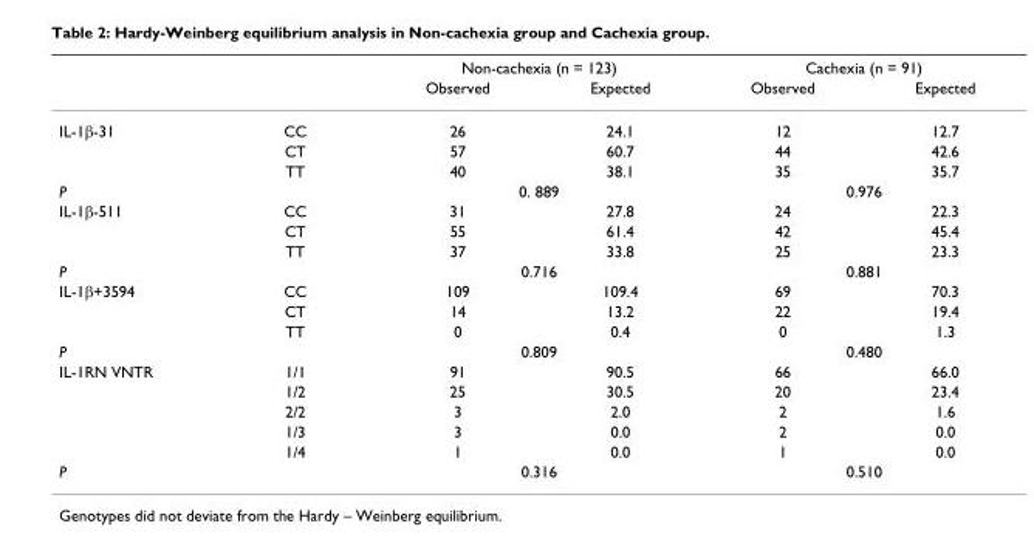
<table><thead><tr><td rowspan="2"></td><td rowspan="2"></td><td colspan="2">Non-cachexia (n = 123)</td><td colspan="2">Cachexia (n = 91)</td></tr><tr><td>Observed</td><td>Expected</td><td>Observed</td><td>Expected</td></tr></thead><tbody><tr><td rowspan="3">IL-1β-31</td><td>CC</td><td>26</td><td>24.1</td><td>12</td><td>12.7</td></tr><tr><td>CT</td><td>57</td><td>60.7</td><td>44</td><td>42.6</td></tr><tr><td>TT</td><td>40</td><td>38.1</td><td>35</td><td>35.7</td></tr><tr><td>P</td><td></td><td colspan="2">0. 889</td><td colspan="2">0.976</td></tr><tr><td rowspan="3">IL-1β-511</td><td>CC</td><td>31</td><td>27.8</td><td>24</td><td>22.3</td></tr><tr><td>CT</td><td>55</td><td>61.4</td><td>42</td><td>45.4</td></tr><tr><td>TT</td><td>37</td><td>33.8</td><td>25</td><td>23.3</td></tr><tr><td>P</td><td></td><td colspan="2">0.716</td><td colspan="2">0.881</td></tr><tr><td rowspan="3">IL-1β+3594</td><td>CC</td><td>109</td><td>109.4</td><td>69</td><td>70.3</td></tr><tr><td>CT</td><td>14</td><td>13.2</td><td>22</td><td>19.4</td></tr><tr><td>TT</td><td>0</td><td>0.4</td><td>0</td><td>1.3</td></tr><tr><td>P</td><td></td><td colspan="2">0.809</td><td colspan="2">0.480</td></tr><tr><td rowspan="5">IL-1RN VNTR</td><td>1/1</td><td>91</td><td>90.5</td><td>66</td><td>66.0</td></tr><tr><td>1/2</td><td>25</td><td>30.5</td><td>20</td><td>23.4</td></tr><tr><td>2/2</td><td>3</td><td>2.0</td><td>2</td><td>1.6</td></tr><tr><td>1/3</td><td>3</td><td>0.0</td><td>2</td><td>0.0</td></tr><tr><td>1/4</td><td>1</td><td>0.0</td><td>1</td><td>0.0</td></tr><tr><td>P</td><td></td><td colspan="2">0.316</td><td colspan="2">0.510</td></tr></tbody></table>